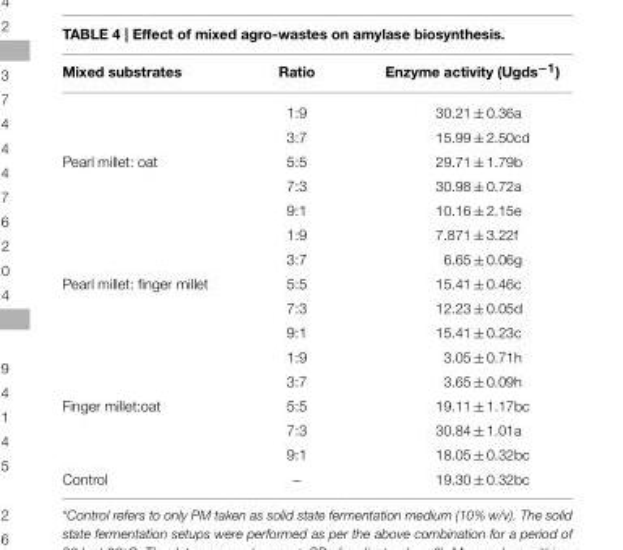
<table><thead><tr><td>Mixed substrates</td><td>Ratio</td><td>Enzyme activity (Ugds<sup>−1</sup>)</td></tr></thead><tbody><tr><td></td><td>1:9</td><td>30.21 ± 0.36a</td></tr><tr><td></td><td>3:7</td><td>15.99 ± 2.50cd</td></tr><tr><td rowspan="5">Pearl millet: oat</td><td>5:5</td><td>29.71 ± 1.79b</td></tr><tr><td>7:3</td><td>30.98 ± 0.72a</td></tr><tr><td>9:1</td><td>10.16 ± 2.15e</td></tr><tr><td>1:9</td><td>7.871 ± 3.22f</td></tr><tr><td>3:7</td><td>6.65 ± 0.06g</td></tr><tr><td rowspan="5">Pearl millet: finger millet</td><td>5:5</td><td>15.41 ± 0.46c</td></tr><tr><td>7:3</td><td>12.23 ± 0.05d</td></tr><tr><td>9:1</td><td>15.41 ± 0.23c</td></tr><tr><td>1:9</td><td>3.05 ± 0.71h</td></tr><tr><td>3:7</td><td>3.65 ± 0.09h</td></tr><tr><td rowspan="3">Finger millet:oat</td><td>5:5</td><td>19.11 ± 1.17bc</td></tr><tr><td>7:3</td><td>30.84 ± 1.01a</td></tr><tr><td>9:1</td><td>18.05 ± 0.32bc</td></tr><tr><td>Control</td><td>–</td><td>19.30 ± 0.32bc</td></tr></tbody></table>